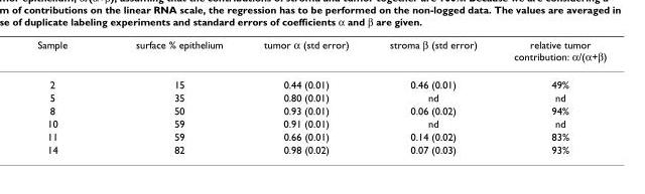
<table><thead><tr><td>Sample</td><td>surface % epithelium</td><td>tumor α (std error)</td><td>stroma β (std error)</td><td>relative tumor contribution: α/(α+β)</td></tr></thead><tbody><tr><td>2</td><td>15</td><td>0.44 (0.01)</td><td>0.46 (0.01)</td><td>49%</td></tr><tr><td>5</td><td>35</td><td>0.80 (0.01)</td><td>nd</td><td>nd</td></tr><tr><td>8</td><td>50</td><td>0.93 (0.01)</td><td>0.06 (0.02)</td><td>94%</td></tr><tr><td>10</td><td>59</td><td>0.91 (0.01)</td><td>nd</td><td>nd</td></tr><tr><td>11</td><td>59</td><td>0.66 (0.01)</td><td>0.14 (0.02)</td><td>83%</td></tr><tr><td>14</td><td>82</td><td>0.98 (0.02)</td><td>0.07 (0.03)</td><td>93%</td></tr></tbody></table>